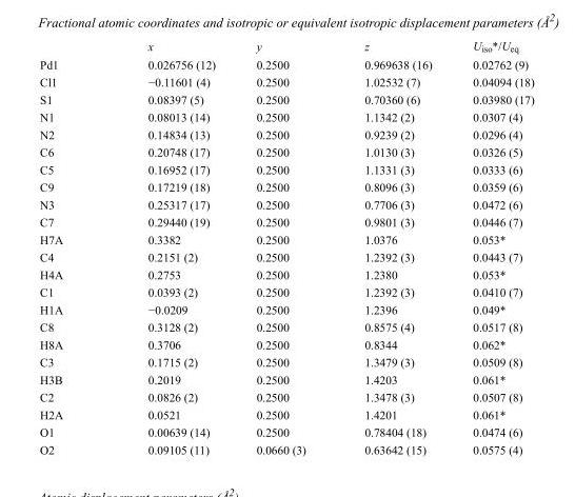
<table><thead><tr><td></td><td>x</td><td>y</td><td>z</td><td>U<sub>iso</sub>*/U<sub>eq</sub></td></tr></thead><tbody><tr><td>Pd1</td><td>0.026756 (12)</td><td>0.2500</td><td>0.969638 (16)</td><td>0.02762 (9)</td></tr><tr><td>Cl1</td><td>−0.11601 (4)</td><td>0.2500</td><td>1.02532 (7)</td><td>0.04094 (18)</td></tr><tr><td>S1</td><td>0.08397 (5)</td><td>0.2500</td><td>0.70360 (6)</td><td>0.03980 (17)</td></tr><tr><td>N1</td><td>0.08013 (14)</td><td>0.2500</td><td>1.1342 (2)</td><td>0.0307 (4)</td></tr><tr><td>N2</td><td>0.14834 (13)</td><td>0.2500</td><td>0.9239 (2)</td><td>0.0296 (4)</td></tr><tr><td>C6</td><td>0.20748 (17)</td><td>0.2500</td><td>1.0130 (3)</td><td>0.0326 (5)</td></tr><tr><td>C5</td><td>0.16952 (17)</td><td>0.2500</td><td>1.1331 (3)</td><td>0.0333 (6)</td></tr><tr><td>C9</td><td>0.17219 (18)</td><td>0.2500</td><td>0.8096 (3)</td><td>0.0359 (6)</td></tr><tr><td>N3</td><td>0.25317 (17)</td><td>0.2500</td><td>0.7706 (3)</td><td>0.0472 (6)</td></tr><tr><td>C7</td><td>0.29440 (19)</td><td>0.2500</td><td>0.9801 (3)</td><td>0.0446 (7)</td></tr><tr><td>H7A</td><td>0.3382</td><td>0.2500</td><td>1.0376</td><td>0.053*</td></tr><tr><td>C4</td><td>0.2151 (2)</td><td>0.2500</td><td>1.2392 (3)</td><td>0.0443 (7)</td></tr><tr><td>H4A</td><td>0.2753</td><td>0.2500</td><td>1.2380</td><td>0.053*</td></tr><tr><td>C1</td><td>0.0393 (2)</td><td>0.2500</td><td>1.2392 (3)</td><td>0.0410 (7)</td></tr><tr><td>H1A</td><td>−0.0209</td><td>0.2500</td><td>1.2396</td><td>0.049*</td></tr><tr><td>C8</td><td>0.3128 (2)</td><td>0.2500</td><td>0.8575 (4)</td><td>0.0517 (8)</td></tr><tr><td>H8A</td><td>0.3706</td><td>0.2500</td><td>0.8344</td><td>0.062*</td></tr><tr><td>C3</td><td>0.1715 (2)</td><td>0.2500</td><td>1.3479 (3)</td><td>0.0509 (8)</td></tr><tr><td>H3B</td><td>0.2019</td><td>0.2500</td><td>1.4203</td><td>0.061*</td></tr><tr><td>C2</td><td>0.0826 (2)</td><td>0.2500</td><td>1.3478 (3)</td><td>0.0507 (8)</td></tr><tr><td>H2A</td><td>0.0521</td><td>0.2500</td><td>1.4201</td><td>0.061*</td></tr><tr><td>O1</td><td>0.00639 (14)</td><td>0.2500</td><td>0.78404 (18)</td><td>0.0474 (6)</td></tr><tr><td>O2</td><td>0.09105 (11)</td><td>0.0660 (3)</td><td>0.63642 (15)</td><td>0.0575 (4)</td></tr></tbody></table>